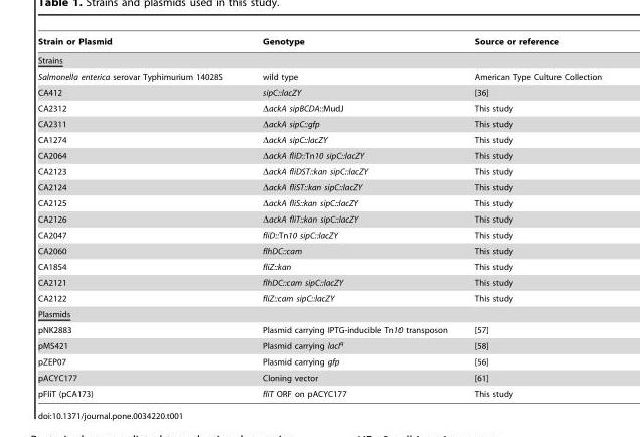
<table><thead><tr><td>Strain or Plasmid</td><td>Genotype</td><td>Source or reference</td></tr></thead><tbody><tr><td colspan="3">Strains</td></tr><tr><td>Salmonella enterica serovar Typhimurium 14028S</td><td>wild type</td><td>American Type Culture Collection</td></tr><tr><td>CA412</td><td>sipC::lacZY</td><td>[36]</td></tr><tr><td>CA2312</td><td>ΔackA sipBCDA::MudJ</td><td>This study</td></tr><tr><td>CA2311</td><td>ΔackA sipC::gfp</td><td>This study</td></tr><tr><td>CA1274</td><td>ΔackA sipC::lacZY</td><td>This study</td></tr><tr><td>CA2064</td><td>ΔackA fliD::Tn10 sipC::lacZY</td><td>This study</td></tr><tr><td>CA2123</td><td>ΔackA fliDST::kan sipC::lacZY</td><td>This study</td></tr><tr><td>CA2124</td><td>ΔackA fliST::kan sipC::lacZY</td><td>This study</td></tr><tr><td>CA2125</td><td>ΔackA fliS::kan sipC::lacZY</td><td>This study</td></tr><tr><td>CA2126</td><td>ΔackA fliT::kan sipC::lacZY</td><td>This study</td></tr><tr><td>CA2047</td><td>fliD::Tn10 sipC::lacZY</td><td>This study</td></tr><tr><td>CA2060</td><td>flhDC::cam</td><td>This study</td></tr><tr><td>CA1854</td><td>fliZ::kan</td><td>This study</td></tr><tr><td>CA2121</td><td>flhDC::cam sipC::lacZY</td><td>This study</td></tr><tr><td>CA2122</td><td>fliZ::cam sipC::lacZY</td><td>This study</td></tr><tr><td colspan="3">Plasmids</td></tr><tr><td>pNK2883</td><td>Plasmid carrying IPTG-inducible Tn10 transposon</td><td>[57]</td></tr><tr><td>pMS421</td><td>Plasmid carrying lacI<sup>q</sup></td><td>[58]</td></tr><tr><td>pZEP07</td><td>Plasmid carrying gfp</td><td>[56]</td></tr><tr><td>pACYC177</td><td>Cloning vector</td><td>[61]</td></tr><tr><td>pFliT (pCA173)</td><td>fliT ORF on pACYC177</td><td>This study</td></tr></tbody></table>